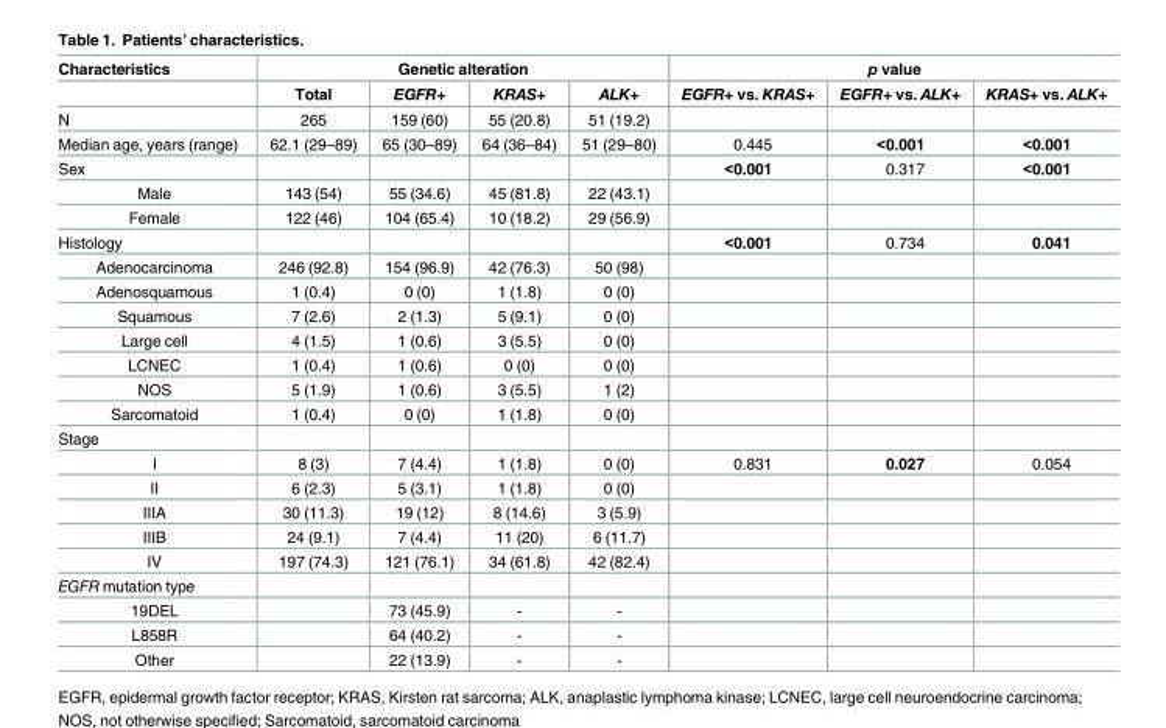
<table><thead><tr><td rowspan="2">Characteristics</td><td colspan="4">Genetic alteration</td><td colspan="3">p value</td></tr><tr><td>Total</td><td>EGFR+</td><td>KRAS+</td><td>ALK+</td><td>EGFR+ vs. KRAS+</td><td>EGFR+ vs. ALK+</td><td>KRAS+ vs. ALK+</td></tr></thead><tbody><tr><td>N</td><td>265</td><td>159 (60)</td><td>55 (20.8)</td><td>51 (19.2)</td><td></td><td></td><td></td></tr><tr><td>Median age, years (range)</td><td>62.1 (29–89)</td><td>65 (30–89)</td><td>64 (36–84)</td><td>51 (29–80)</td><td>0.445</td><td>&lt;0.001</td><td>&lt;0.001</td></tr><tr><td>Sex</td><td></td><td></td><td></td><td></td><td>&lt;0.001</td><td>0.317</td><td>&lt;0.001</td></tr><tr><td>Male</td><td>143 (54)</td><td>55 (34.6)</td><td>45 (81.8)</td><td>22 (43.1)</td><td></td><td></td><td></td></tr><tr><td>Female</td><td>122 (46)</td><td>104 (65.4)</td><td>10 (18.2)</td><td>29 (56.9)</td><td></td><td></td><td></td></tr><tr><td>Histology</td><td></td><td></td><td></td><td></td><td>&lt;0.001</td><td>0.734</td><td>0.041</td></tr><tr><td>Adenocarcinoma</td><td>246 (92.8)</td><td>154 (96.9)</td><td>42 (76.3)</td><td>50 (98)</td><td></td><td></td><td></td></tr><tr><td>Adenosquamous</td><td>1 (0.4)</td><td>0 (0)</td><td>1 (1.8)</td><td>0 (0)</td><td></td><td></td><td></td></tr><tr><td>Squamous</td><td>7 (2.6)</td><td>2 (1.3)</td><td>5 (9.1)</td><td>0 (0)</td><td></td><td></td><td></td></tr><tr><td>Large cell</td><td>4 (1.5)</td><td>1 (0.6)</td><td>3 (5.5)</td><td>0 (0)</td><td></td><td></td><td></td></tr><tr><td>LCNEC</td><td>1 (0.4)</td><td>1 (0.6)</td><td>0 (0)</td><td>0 (0)</td><td></td><td></td><td></td></tr><tr><td>NOS</td><td>5 (1.9)</td><td>1 (0.6)</td><td>3 (5.5)</td><td>1 (2)</td><td></td><td></td><td></td></tr><tr><td>Sarcomatoid</td><td>1 (0.4)</td><td>0 (0)</td><td>1 (1.8)</td><td>0 (0)</td><td></td><td></td><td></td></tr><tr><td colspan="8">Stage</td></tr><tr><td>I</td><td>8 (3)</td><td>7 (4.4)</td><td>1 (1.8)</td><td>0 (0)</td><td>0.831</td><td>0.027</td><td>0.054</td></tr><tr><td>II</td><td>6 (2.3)</td><td>5 (3.1)</td><td>1 (1.8)</td><td>0 (0)</td><td></td><td></td><td></td></tr><tr><td>IIIA</td><td>30 (11.3)</td><td>19 (12)</td><td>8 (14.6)</td><td>3 (5.9)</td><td></td><td></td><td></td></tr><tr><td>IIIB</td><td>24 (9.1)</td><td>7 (4.4)</td><td>11 (20)</td><td>6 (11.7)</td><td></td><td></td><td></td></tr><tr><td>IV</td><td>197 (74.3)</td><td>121 (76.1)</td><td>34 (61.8)</td><td>42 (82.4)</td><td></td><td></td><td></td></tr><tr><td colspan="8">EGFR mutation type</td></tr><tr><td>19DEL</td><td></td><td>73 (45.9)</td><td>-</td><td>-</td><td></td><td></td><td></td></tr><tr><td>L858R</td><td></td><td>64 (40.2)</td><td>-</td><td>-</td><td></td><td></td><td></td></tr><tr><td>Other</td><td></td><td>22 (13.9)</td><td>-</td><td>-</td><td></td><td></td><td></td></tr></tbody></table>